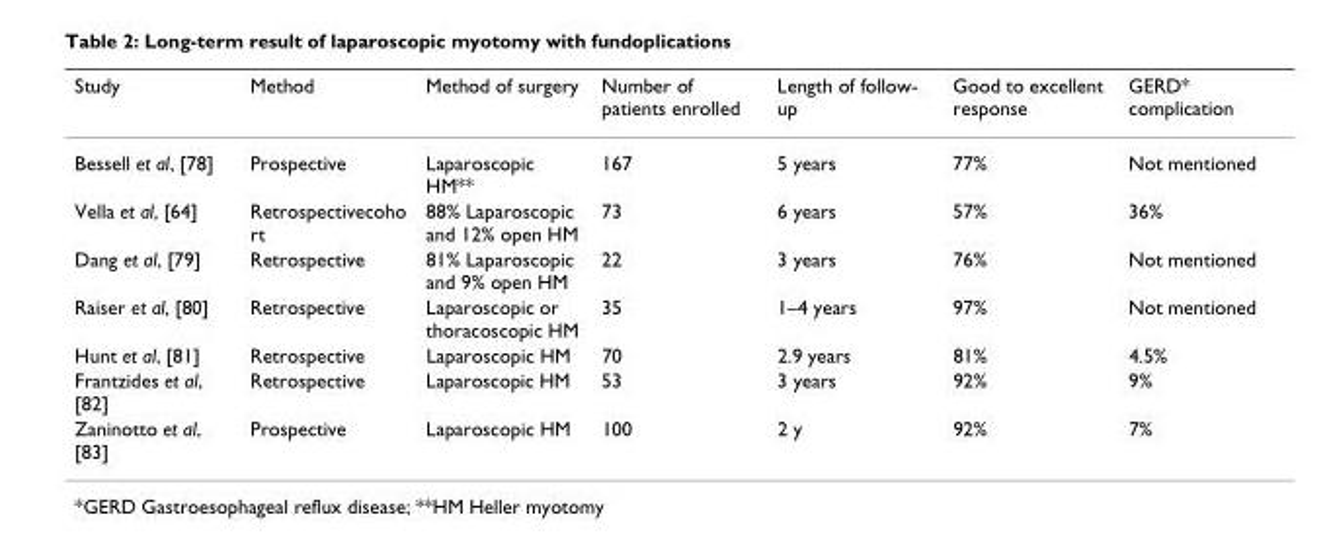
<table><thead><tr><td>Study</td><td>Method</td><td>Method of surgery</td><td>Number of patients enrolled</td><td>Length of follow- up</td><td>Good to excellent response</td><td>GERD* complication</td></tr></thead><tbody><tr><td>Bessell et al, [78]</td><td>Prospective</td><td>Laparoscopic HM**</td><td>167</td><td>5 years</td><td>77%</td><td>Not mentioned</td></tr><tr><td>Vella et al, [64]</td><td>Retrospectivecoho rt</td><td>88% Laparoscopic and 12% open HM</td><td>73</td><td>6 years</td><td>57%</td><td>36%</td></tr><tr><td>Dang et al, [79]</td><td>Retrospective</td><td>81% Laparoscopic and 9% open HM</td><td>22</td><td>3 years</td><td>76%</td><td>Not mentioned</td></tr><tr><td>Raiser et al, [80]</td><td>Retrospective</td><td>Laparoscopic or thoracoscopic HM</td><td>35</td><td>1–4 years</td><td>97%</td><td>Not mentioned</td></tr><tr><td>Hunt et al, [81]</td><td>Retrospective</td><td>Laparoscopic HM</td><td>70</td><td>2.9 years</td><td>81%</td><td>4.5%</td></tr><tr><td>Frantzides et al, [82]</td><td>Retrospective</td><td>Laparoscopic HM</td><td>53</td><td>3 years</td><td>92%</td><td>9%</td></tr><tr><td>Zaninotto et al, [83]</td><td>Prospective</td><td>Laparoscopic HM</td><td>100</td><td>2 y</td><td>92%</td><td>7%</td></tr></tbody></table>